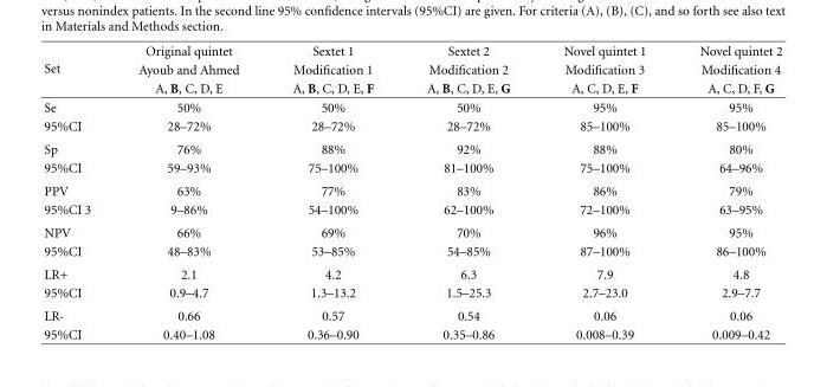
<table><thead><tr><td rowspan="3">Set</td><td rowspan="3">Original quintet Ayoub and Ahmed A, B, C, D, E</td><td rowspan="3">Sextet 1 Modification 1 A, B, C, D, E, F</td><td rowspan="3">Sextet 2 Modification 2 A, B, C, D, E, G</td><td rowspan="3">Novel quintet 1 Modification 3 A, C, D, E, F</td><td rowspan="3">Novel quintet 2 Modification 4 A, C, D, F, G</td></tr><tr></tr><tr></tr></thead><tbody><tr><td>Se</td><td>50%</td><td>50%</td><td>50%</td><td>95%</td><td>95%</td></tr><tr><td>95%CI</td><td>28–72%</td><td>28–72%</td><td>28–72%</td><td>85–100%</td><td>85–100%</td></tr><tr><td>Sp</td><td>76%</td><td>88%</td><td>92%</td><td>88%</td><td>80%</td></tr><tr><td>95%CI</td><td>59–93%</td><td>75–100%</td><td>81–100%</td><td>75–100%</td><td>64–96%</td></tr><tr><td>PPV</td><td>63%</td><td>77%</td><td>83%</td><td>86%</td><td>79%</td></tr><tr><td>95%CI 3</td><td>9–86%</td><td>54–100%</td><td>62–100%</td><td>72–100%</td><td>63–95%</td></tr><tr><td>NPV</td><td>66%</td><td>69%</td><td>70%</td><td>96%</td><td>95%</td></tr><tr><td>95%CI</td><td>48–83%</td><td>53–85%</td><td>54–85%</td><td>87–100%</td><td>86–100%</td></tr><tr><td>LR+</td><td>2.1</td><td>4.2</td><td>6.3</td><td>7.9</td><td>4.8</td></tr><tr><td>95%CI</td><td>0.9–4.7</td><td>1.3–13.2</td><td>1.5–25.3</td><td>2.7–23.0</td><td>2.9–7.7</td></tr><tr><td>LR-</td><td>0.66</td><td>0.57</td><td>0.54</td><td>0.06</td><td>0.06</td></tr><tr><td>95%CI</td><td>0.40–1.08</td><td>0.36–0.90</td><td>0.35–0.86</td><td>0.008–0.39</td><td>0.009–0.42</td></tr></tbody></table>